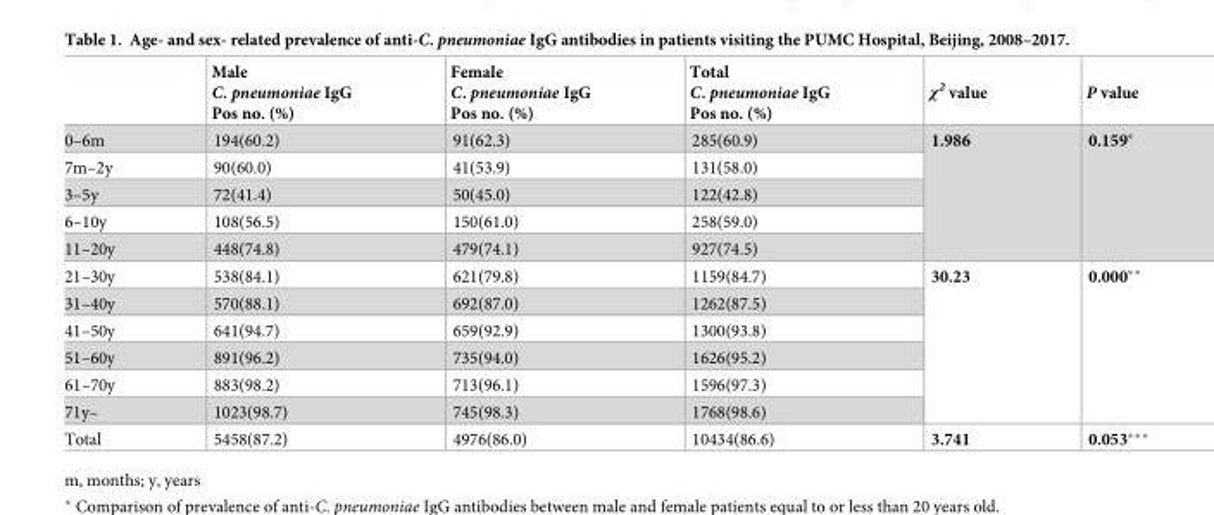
<table><thead><tr><td></td><td>Male C. pneumoniae IgG Pos no. (%)</td><td>Female C. pneumoniae IgG Pos no. (%)</td><td>Total C. pneumoniae IgG Pos no. (%)</td><td>χ<sup>2</sup> value</td><td>P value</td></tr></thead><tbody><tr><td>0–6m</td><td>194(60.2)</td><td>91(62.3)</td><td>285(60.9)</td><td rowspan="5">1.986</td><td rowspan="5">0.159*</td></tr><tr><td>7m–2y</td><td>90(60.0)</td><td>41(53.9)</td><td>131(58.0)</td></tr><tr><td>3–5y</td><td>72(41.4)</td><td>50(45.0)</td><td>122(42.8)</td></tr><tr><td>6–10y</td><td>108(56.5)</td><td>150(61.0)</td><td>258(59.0)</td></tr><tr><td>11–20y</td><td>448(74.8)</td><td>479(74.1)</td><td>927(74.5)</td></tr><tr><td>21–30y</td><td>538(84.1)</td><td>621(79.8)</td><td>1159(84.7)</td><td rowspan="6">30.23</td><td rowspan="6">0.000**</td></tr><tr><td>31–40y</td><td>570(88.1)</td><td>692(87.0)</td><td>1262(87.5)</td></tr><tr><td>41–50y</td><td>641(94.7)</td><td>659(92.9)</td><td>1300(93.8)</td></tr><tr><td>51–60y</td><td>891(96.2)</td><td>735(94.0)</td><td>1626(95.2)</td></tr><tr><td>61–70y</td><td>883(98.2)</td><td>713(96.1)</td><td>1596(97.3)</td></tr><tr><td>71y–</td><td>1023(98.7)</td><td>745(98.3)</td><td>1768(98.6)</td></tr><tr><td>Total</td><td>5458(87.2)</td><td>4976(86.0)</td><td>10434(86.6)</td><td>3.741</td><td>0.053***</td></tr></tbody></table>